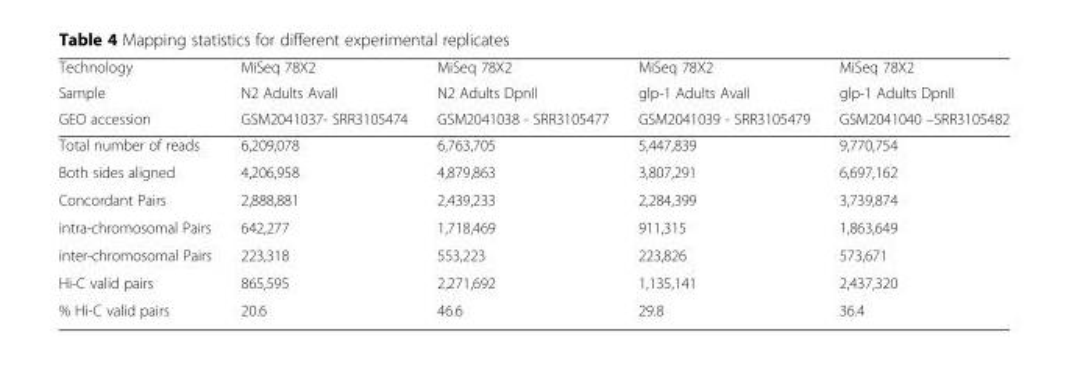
<table><thead><tr><td rowspan="3">Technology Sample GEO accession</td><td rowspan="3">MiSeq 78X2 N2 Adults AvaII GSM2041037- SRR3105474</td><td rowspan="3">MiSeq 78X2 N2 Adults DpnII GSM2041038 - SRR3105477</td><td rowspan="3">MiSeq 78X2 glp-1 Adults AvaII GSM2041039 - SRR3105479</td><td rowspan="3">MiSeq 78X2 glp-1 Adults DpnII GSM2041040 –SRR3105482</td></tr><tr></tr><tr></tr></thead><tbody><tr><td>Total number of reads</td><td>6,209,078</td><td>6,763,705</td><td>5,447,839</td><td>9,770,754</td></tr><tr><td>Both sides aligned</td><td>4,206,958</td><td>4,879,863</td><td>3,807,291</td><td>6,697,162</td></tr><tr><td>Concordant Pairs</td><td>2,888,881</td><td>2,439,233</td><td>2,284,399</td><td>3,739,874</td></tr><tr><td>intra-chromosomal Pairs</td><td>642,277</td><td>1,718,469</td><td>911,315</td><td>1,863,649</td></tr><tr><td>inter-chromosomal Pairs</td><td>223,318</td><td>553,223</td><td>223,826</td><td>573,671</td></tr><tr><td>Hi-C valid pairs</td><td>865,595</td><td>2,271,692</td><td>1,135,141</td><td>2,437,320</td></tr><tr><td>% Hi-C valid pairs</td><td>20.6</td><td>46.6</td><td>29.8</td><td>36.4</td></tr></tbody></table>